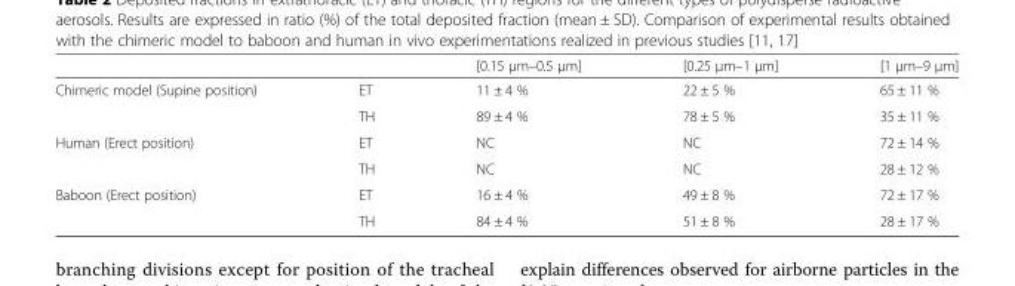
<table><thead><tr><td></td><td></td><td>[0.15 μm–0.5 μm]</td><td>[0.25 μm–1 μm]</td><td>[1 μm–9 μm]</td></tr></thead><tbody><tr><td rowspan="2">Chimeric model (Supine position)</td><td>ET</td><td>11 ± 4 %</td><td>22 ± 5 %</td><td>65 ± 11 %</td></tr><tr><td>TH</td><td>89 ± 4 %</td><td>78 ± 5 %</td><td>35 ± 11 %</td></tr><tr><td rowspan="2">Human (Erect position)</td><td>ET</td><td>NC</td><td>NC</td><td>72 ± 14 %</td></tr><tr><td>TH</td><td>NC</td><td>NC</td><td>28 ± 12 %</td></tr><tr><td rowspan="2">Baboon (Erect position)</td><td>ET</td><td>16 ± 4 %</td><td>49 ± 8 %</td><td>72 ± 17 %</td></tr><tr><td>TH</td><td>84 ± 4 %</td><td>51 ± 8 %</td><td>28 ± 17 %</td></tr></tbody></table>